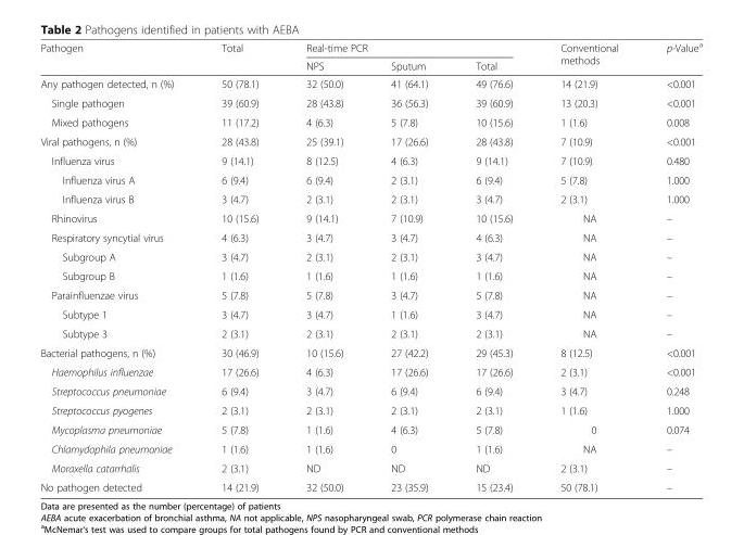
<table><thead><tr><td rowspan="2">Pathogen</td><td rowspan="2">Total</td><td colspan="3">Real-time PCR</td><td rowspan="2">Conventional methods</td><td rowspan="2">p-Value<sup>a</sup></td></tr><tr><td>NPS</td><td>Sputum</td><td>Total</td></tr></thead><tbody><tr><td>Any pathogen detected, n (%)</td><td>50 (78.1)</td><td>32 (50.0)</td><td>41 (64.1)</td><td>49 (76.6)</td><td>14 (21.9)</td><td>&lt;0.001</td></tr><tr><td>Single pathogen</td><td>39 (60.9)</td><td>28 (43.8)</td><td>36 (56.3)</td><td>39 (60.9)</td><td>13 (20.3)</td><td>&lt;0.001</td></tr><tr><td>Mixed pathogens</td><td>11 (17.2)</td><td>4 (6.3)</td><td>5 (7.8)</td><td>10 (15.6)</td><td>1 (1.6)</td><td>0.008</td></tr><tr><td>Viral pathogens, n (%)</td><td>28 (43.8)</td><td>25 (39.1)</td><td>17 (26.6)</td><td>28 (43.8)</td><td>7 (10.9)</td><td>&lt;0.001</td></tr><tr><td>Influenza virus</td><td>9 (14.1)</td><td>8 (12.5)</td><td>4 (6.3)</td><td>9 (14.1)</td><td>7 (10.9)</td><td>0.480</td></tr><tr><td>Influenza virus A</td><td>6 (9.4)</td><td>6 (9.4)</td><td>2 (3.1)</td><td>6 (9.4)</td><td>5 (7.8)</td><td>1.000</td></tr><tr><td>Influenza virus B</td><td>3 (4.7)</td><td>2 (3.1)</td><td>2 (3.1)</td><td>3 (4.7)</td><td>2 (3.1)</td><td>1.000</td></tr><tr><td>Rhinovirus</td><td>10 (15.6)</td><td>9 (14.1)</td><td>7 (10.9)</td><td>10 (15.6)</td><td>NA</td><td>–</td></tr><tr><td>Respiratory syncytial virus</td><td>4 (6.3)</td><td>3 (4.7)</td><td>3 (4.7)</td><td>4 (6.3)</td><td>NA</td><td>–</td></tr><tr><td>Subgroup A</td><td>3 (4.7)</td><td>2 (3.1)</td><td>2 (3.1)</td><td>3 (4.7)</td><td>NA</td><td>–</td></tr><tr><td>Subgroup B</td><td>1 (1.6)</td><td>1 (1.6)</td><td>1 (1.6)</td><td>1 (1.6)</td><td>NA</td><td>–</td></tr><tr><td>Parainfluenzae virus</td><td>5 (7.8)</td><td>5 (7.8)</td><td>3 (4.7)</td><td>5 (7.8)</td><td>NA</td><td>–</td></tr><tr><td>Subtype 1</td><td>3 (4.7)</td><td>3 (4.7)</td><td>1 (1.6)</td><td>3 (4.7)</td><td>NA</td><td>–</td></tr><tr><td>Subtype 3</td><td>2 (3.1)</td><td>2 (3.1)</td><td>2 (3.1)</td><td>2 (3.1)</td><td>NA</td><td>–</td></tr><tr><td>Bacterial pathogens, n (%)</td><td>30 (46.9)</td><td>10 (15.6)</td><td>27 (42.2)</td><td>29 (45.3)</td><td>8 (12.5)</td><td>&lt;0.001</td></tr><tr><td>Haemophilus influenzae</td><td>17 (26.6)</td><td>4 (6.3)</td><td>17 (26.6)</td><td>17 (26.6)</td><td>2 (3.1)</td><td>&lt;0.001</td></tr><tr><td>Streptococcus pneumoniae</td><td>6 (9.4)</td><td>3 (4.7)</td><td>6 (9.4)</td><td>6 (9.4)</td><td>3 (4.7)</td><td>0.248</td></tr><tr><td>Streptococcus pyogenes</td><td>2 (3.1)</td><td>2 (3.1)</td><td>2 (3.1)</td><td>2 (3.1)</td><td>1 (1.6)</td><td>1.000</td></tr><tr><td>Mycoplasma pneumoniae</td><td>5 (7.8)</td><td>1 (1.6)</td><td>4 (6.3)</td><td>5 (7.8)</td><td>0</td><td>0.074</td></tr><tr><td>Chlamydophila pneumoniae</td><td>1 (1.6)</td><td>1 (1.6)</td><td>0</td><td>1 (1.6)</td><td>NA</td><td>–</td></tr><tr><td>Moraxella catarrhalis</td><td>2 (3.1)</td><td>ND</td><td>ND</td><td>ND</td><td>2 (3.1)</td><td>–</td></tr><tr><td>No pathogen detected</td><td>14 (21.9)</td><td>32 (50.0)</td><td>23 (35.9)</td><td>15 (23.4)</td><td>50 (78.1)</td><td>–</td></tr></tbody></table>